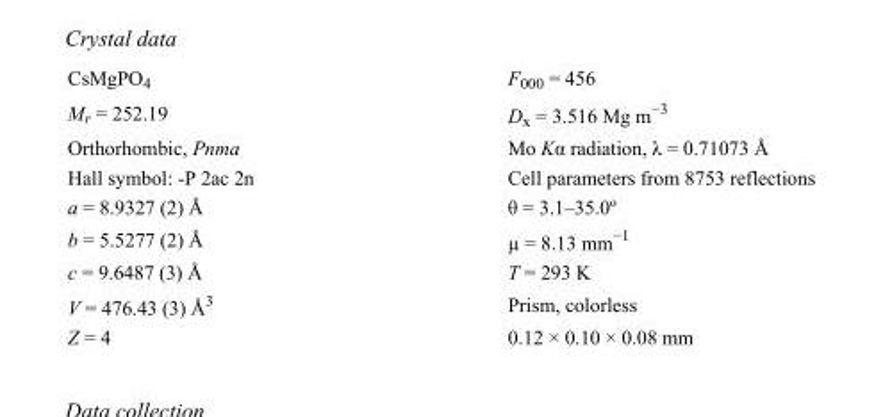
<table><tbody><tr><td>CsMgPO<sub>4</sub></td><td>F000 = 456</td></tr><tr><td>M<sub>r</sub> = 252.19</td><td>D<sub>x</sub> = 3.516 Mg m<sup>−3</sup></td></tr><tr><td>Orthorhombic, Pnma</td><td>Mo Kα radiation, λ = 0.71073 Å</td></tr><tr><td>Hall symbol: -P 2ac 2n</td><td>Cell parameters from 8753 reflections</td></tr><tr><td>a = 8.9327 (2) Å</td><td>θ = 3.1–35.0º</td></tr><tr><td>b = 5.5277 (2) Å</td><td>µ = 8.13 mm<sup>−1</sup></td></tr><tr><td>c = 9.6487 (3) Å</td><td>T = 293 K</td></tr><tr><td>V = 476.43 (3) Å<sup>3</sup></td><td>Prism, colorless</td></tr><tr><td>Z = 4</td><td>0.12 × 0.10 × 0.08 mm</td></tr></tbody></table>